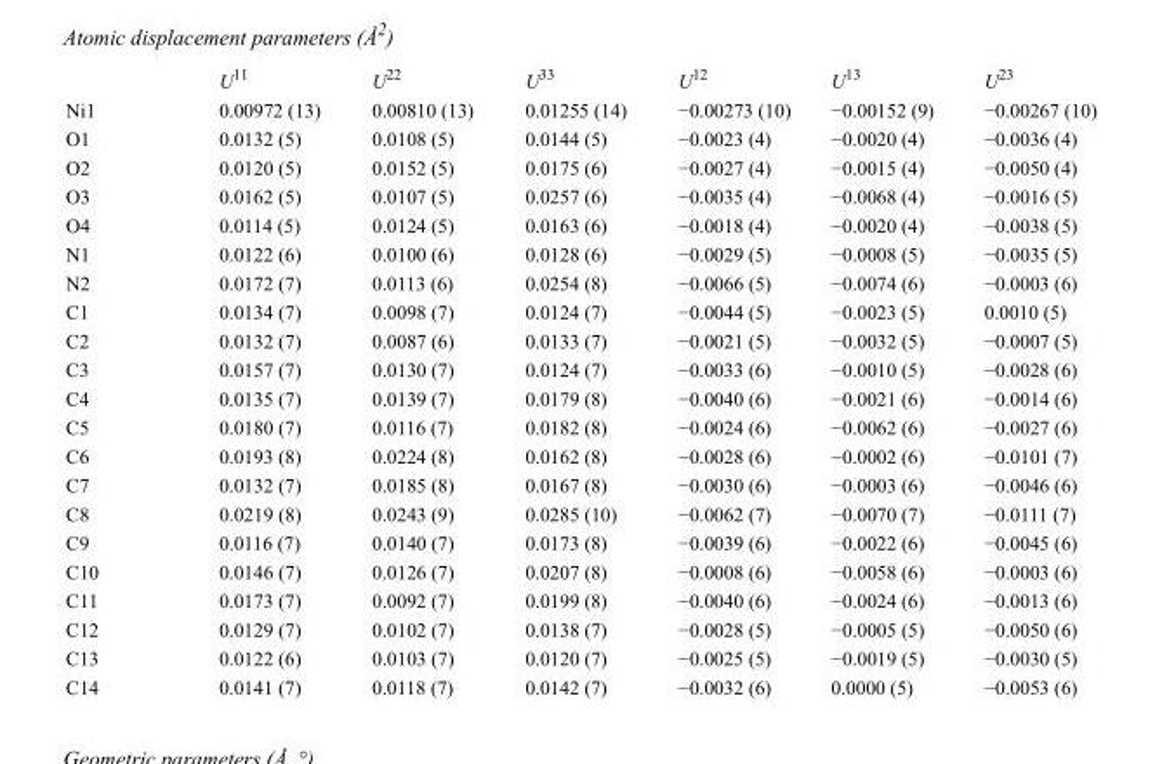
<table><thead><tr><td></td><td>U<sup>11</sup></td><td>U<sup>22</sup></td><td>U<sup>33</sup></td><td>U<sup>12</sup></td><td>U<sup>13</sup></td><td>U<sup>23</sup></td></tr></thead><tbody><tr><td>Ni1</td><td>0.00972 (13)</td><td>0.00810 (13)</td><td>0.01255 (14)</td><td>−0.00273 (10)</td><td>−0.00152 (9)</td><td>−0.00267 (10)</td></tr><tr><td>O1</td><td>0.0132 (5)</td><td>0.0108 (5)</td><td>0.0144 (5)</td><td>−0.0023 (4)</td><td>−0.0020 (4)</td><td>−0.0036 (4)</td></tr><tr><td>O2</td><td>0.0120 (5)</td><td>0.0152 (5)</td><td>0.0175 (6)</td><td>−0.0027 (4)</td><td>−0.0015 (4)</td><td>−0.0050 (4)</td></tr><tr><td>O3</td><td>0.0162 (5)</td><td>0.0107 (5)</td><td>0.0257 (6)</td><td>−0.0035 (4)</td><td>−0.0068 (4)</td><td>−0.0016 (5)</td></tr><tr><td>O4</td><td>0.0114 (5)</td><td>0.0124 (5)</td><td>0.0163 (6)</td><td>−0.0018 (4)</td><td>−0.0020 (4)</td><td>−0.0038 (5)</td></tr><tr><td>N1</td><td>0.0122 (6)</td><td>0.0100 (6)</td><td>0.0128 (6)</td><td>−0.0029 (5)</td><td>−0.0008 (5)</td><td>−0.0035 (5)</td></tr><tr><td>N2</td><td>0.0172 (7)</td><td>0.0113 (6)</td><td>0.0254 (8)</td><td>−0.0066 (5)</td><td>−0.0074 (6)</td><td>−0.0003 (6)</td></tr><tr><td>C1</td><td>0.0134 (7)</td><td>0.0098 (7)</td><td>0.0124 (7)</td><td>−0.0044 (5)</td><td>−0.0023 (5)</td><td>0.0010 (5)</td></tr><tr><td>C2</td><td>0.0132 (7)</td><td>0.0087 (6)</td><td>0.0133 (7)</td><td>−0.0021 (5)</td><td>−0.0032 (5)</td><td>−0.0007 (5)</td></tr><tr><td>C3</td><td>0.0157 (7)</td><td>0.0130 (7)</td><td>0.0124 (7)</td><td>−0.0033 (6)</td><td>−0.0010 (5)</td><td>−0.0028 (6)</td></tr><tr><td>C4</td><td>0.0135 (7)</td><td>0.0139 (7)</td><td>0.0179 (8)</td><td>−0.0040 (6)</td><td>−0.0021 (6)</td><td>−0.0014 (6)</td></tr><tr><td>C5</td><td>0.0180 (7)</td><td>0.0116 (7)</td><td>0.0182 (8)</td><td>−0.0024 (6)</td><td>−0.0062 (6)</td><td>−0.0027 (6)</td></tr><tr><td>C6</td><td>0.0193 (8)</td><td>0.0224 (8)</td><td>0.0162 (8)</td><td>−0.0028 (6)</td><td>−0.0002 (6)</td><td>−0.0101 (7)</td></tr><tr><td>C7</td><td>0.0132 (7)</td><td>0.0185 (8)</td><td>0.0167 (8)</td><td>−0.0030 (6)</td><td>−0.0003 (6)</td><td>−0.0046 (6)</td></tr><tr><td>C8</td><td>0.0219 (8)</td><td>0.0243 (9)</td><td>0.0285 (10)</td><td>−0.0062 (7)</td><td>−0.0070 (7)</td><td>−0.0111 (7)</td></tr><tr><td>C9</td><td>0.0116 (7)</td><td>0.0140 (7)</td><td>0.0173 (8)</td><td>−0.0039 (6)</td><td>−0.0022 (6)</td><td>−0.0045 (6)</td></tr><tr><td>C10</td><td>0.0146 (7)</td><td>0.0126 (7)</td><td>0.0207 (8)</td><td>−0.0008 (6)</td><td>−0.0058 (6)</td><td>−0.0003 (6)</td></tr><tr><td>C11</td><td>0.0173 (7)</td><td>0.0092 (7)</td><td>0.0199 (8)</td><td>−0.0040 (6)</td><td>−0.0024 (6)</td><td>−0.0013 (6)</td></tr><tr><td>C12</td><td>0.0129 (7)</td><td>0.0102 (7)</td><td>0.0138 (7)</td><td>−0.0028 (5)</td><td>−0.0005 (5)</td><td>−0.0050 (6)</td></tr><tr><td>C13</td><td>0.0122 (6)</td><td>0.0103 (7)</td><td>0.0120 (7)</td><td>−0.0025 (5)</td><td>−0.0019 (5)</td><td>−0.0030 (5)</td></tr><tr><td>C14</td><td>0.0141 (7)</td><td>0.0118 (7)</td><td>0.0142 (7)</td><td>−0.0032 (6)</td><td>0.0000 (5)</td><td>−0.0053 (6)</td></tr></tbody></table>